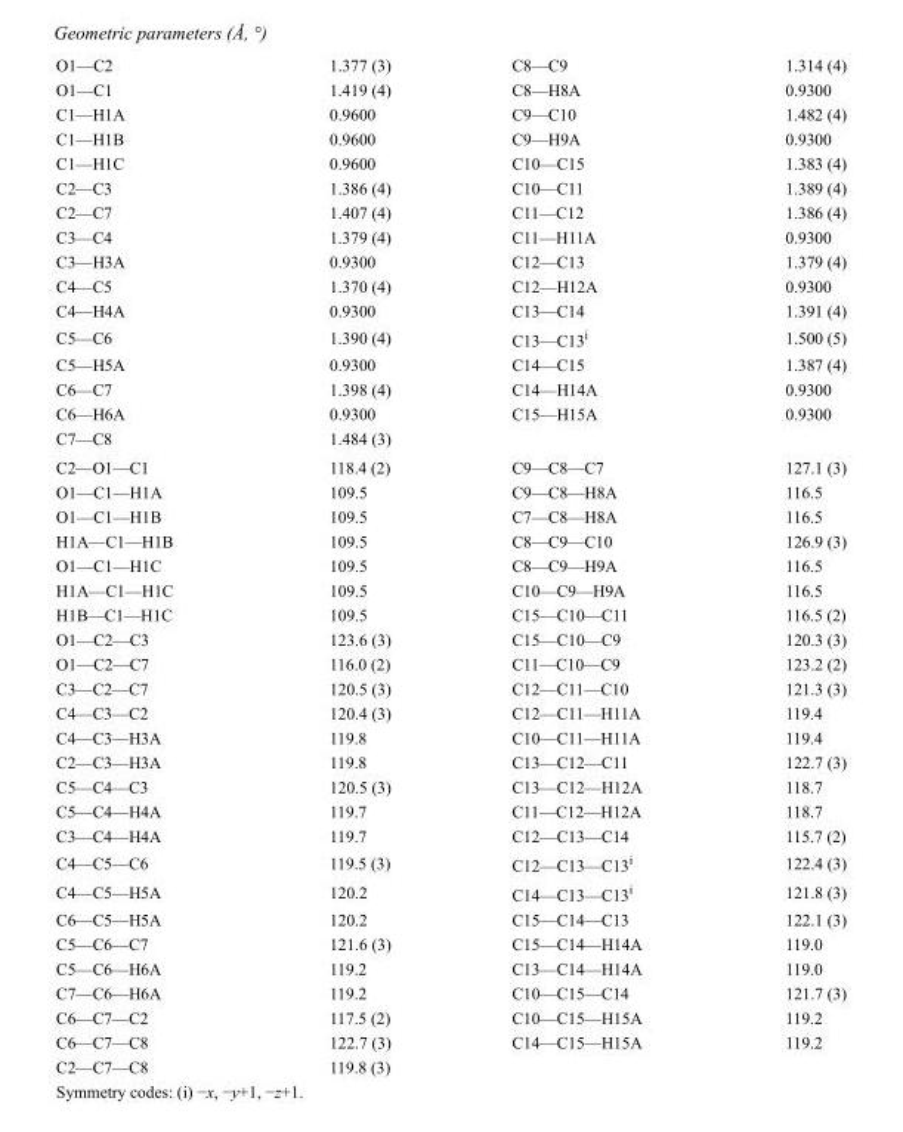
<table><tbody><tr><td>O1—C2</td><td>1.377 (3)</td><td>C8—C9</td><td>1.314 (4)</td></tr><tr><td>O1—C1</td><td>1.419 (4)</td><td>C8—H8A</td><td>0.9300</td></tr><tr><td>C1—H1A</td><td>0.9600</td><td>C9—C10</td><td>1.482 (4)</td></tr><tr><td>C1—H1B</td><td>0.9600</td><td>C9—H9A</td><td>0.9300</td></tr><tr><td>C1—H1C</td><td>0.9600</td><td>C10—C15</td><td>1.383 (4)</td></tr><tr><td>C2—C3</td><td>1.386 (4)</td><td>C10—C11</td><td>1.389 (4)</td></tr><tr><td>C2—C7</td><td>1.407 (4)</td><td>C11—C12</td><td>1.386 (4)</td></tr><tr><td>C3—C4</td><td>1.379 (4)</td><td>C11—H11A</td><td>0.9300</td></tr><tr><td>C3—H3A</td><td>0.9300</td><td>C12—C13</td><td>1.379 (4)</td></tr><tr><td>C4—C5</td><td>1.370 (4)</td><td>C12—H12A</td><td>0.9300</td></tr><tr><td>C4—H4A</td><td>0.9300</td><td>C13—C14</td><td>1.391 (4)</td></tr><tr><td>C5—C6</td><td>1.390 (4)</td><td>C13—C13<sup>i</sup></td><td>1.500 (5)</td></tr><tr><td>C5—H5A</td><td>0.9300</td><td>C14—C15</td><td>1.387 (4)</td></tr><tr><td>C6—C7</td><td>1.398 (4)</td><td>C14—H14A</td><td>0.9300</td></tr><tr><td>C6—H6A</td><td>0.9300</td><td>C15—H15A</td><td>0.9300</td></tr><tr><td>C7—C8</td><td>1.484 (3)</td><td></td><td></td></tr><tr><td>C2—O1—C1</td><td>118.4 (2)</td><td>C9—C8—C7</td><td>127.1 (3)</td></tr><tr><td>O1—C1—H1A</td><td>109.5</td><td>C9—C8—H8A</td><td>116.5</td></tr><tr><td>O1—C1—H1B</td><td>109.5</td><td>C7—C8—H8A</td><td>116.5</td></tr><tr><td>H1A—C1—H1B</td><td>109.5</td><td>C8—C9—C10</td><td>126.9 (3)</td></tr><tr><td>O1—C1—H1C</td><td>109.5</td><td>C8—C9—H9A</td><td>116.5</td></tr><tr><td>H1A—C1—H1C</td><td>109.5</td><td>C10—C9—H9A</td><td>116.5</td></tr><tr><td>H1B—C1—H1C</td><td>109.5</td><td>C15—C10—C11</td><td>116.5 (2)</td></tr><tr><td>O1—C2—C3</td><td>123.6 (3)</td><td>C15—C10—C9</td><td>120.3 (3)</td></tr><tr><td>O1—C2—C7</td><td>116.0 (2)</td><td>C11—C10—C9</td><td>123.2 (2)</td></tr><tr><td>C3—C2—C7</td><td>120.5 (3)</td><td>C12—C11—C10</td><td>121.3 (3)</td></tr><tr><td>C4—C3—C2</td><td>120.4 (3)</td><td>C12—C11—H11A</td><td>119.4</td></tr><tr><td>C4—C3—H3A</td><td>119.8</td><td>C10—C11—H11A</td><td>119.4</td></tr><tr><td>C2—C3—H3A</td><td>119.8</td><td>C13—C12—C11</td><td>122.7 (3)</td></tr><tr><td>C5—C4—C3</td><td>120.5 (3)</td><td>C13—C12—H12A</td><td>118.7</td></tr><tr><td>C5—C4—H4A</td><td>119.7</td><td>C11—C12—H12A</td><td>118.7</td></tr><tr><td>C3—C4—H4A</td><td>119.7</td><td>C12—C13—C14</td><td>115.7 (2)</td></tr><tr><td>C4—C5—C6</td><td>119.5 (3)</td><td>C12—C13—C13<sup>i</sup></td><td>122.4 (3)</td></tr><tr><td>C4—C5—H5A</td><td>120.2</td><td>C14—C13—C13<sup>i</sup></td><td>121.8 (3)</td></tr><tr><td>C6—C5—H5A</td><td>120.2</td><td>C15—C14—C13</td><td>122.1 (3)</td></tr><tr><td>C5—C6—C7</td><td>121.6 (3)</td><td>C15—C14—H14A</td><td>119.0</td></tr><tr><td>C5—C6—H6A</td><td>119.2</td><td>C13—C14—H14A</td><td>119.0</td></tr><tr><td>C7—C6—H6A</td><td>119.2</td><td>C10—C15—C14</td><td>121.7 (3)</td></tr><tr><td>C6—C7—C2</td><td>117.5 (2)</td><td>C10—C15—H15A</td><td>119.2</td></tr><tr><td>C6—C7—C8</td><td>122.7 (3)</td><td>C14—C15—H15A</td><td>119.2</td></tr><tr><td>C2—C7—C8</td><td>119.8 (3)</td><td></td><td></td></tr></tbody></table>